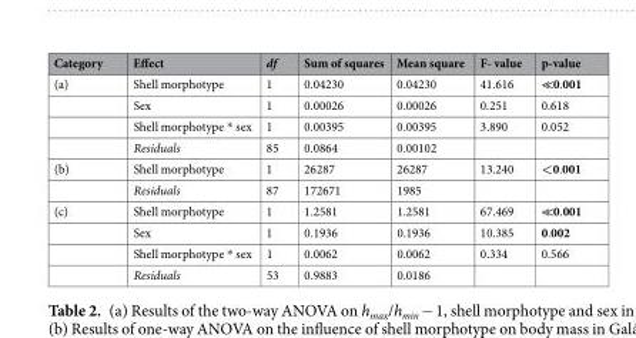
<table><thead><tr><td>Category</td><td>Effect</td><td>df</td><td>Sum of squares</td><td>Mean square</td><td>F- value</td><td>p-value</td></tr></thead><tbody><tr><td rowspan="4">(a)</td><td>Shell morphotype</td><td>1</td><td>0.04230</td><td>0.04230</td><td>41.616</td><td>≪0.001</td></tr><tr><td>Sex</td><td>1</td><td>0.00026</td><td>0.00026</td><td>0.251</td><td>0.618</td></tr><tr><td>Shell morphotype * sex</td><td>1</td><td>0.00395</td><td>0.00395</td><td>3.890</td><td>0.052</td></tr><tr><td>Residuals</td><td>85</td><td>0.0864</td><td>0.00102</td><td></td><td></td></tr><tr><td rowspan="2">(b)</td><td>Shell morphotype</td><td>1</td><td>26287</td><td>26287</td><td>13.240</td><td>&lt;0.001</td></tr><tr><td>Residuals</td><td>87</td><td>172671</td><td>1985</td><td></td><td></td></tr><tr><td rowspan="4">(c)</td><td>Shell morphotype</td><td>1</td><td>1.2581</td><td>1.2581</td><td>67.469</td><td>≪0.001</td></tr><tr><td>Sex</td><td>1</td><td>0.1936</td><td>0.1936</td><td>10.385</td><td>0.002</td></tr><tr><td>Shell morphotype * sex</td><td>1</td><td>0.0062</td><td>0.0062</td><td>0.334</td><td>0.566</td></tr><tr><td>Residuals</td><td>53</td><td>0.9883</td><td>0.0186</td><td></td><td></td></tr></tbody></table>